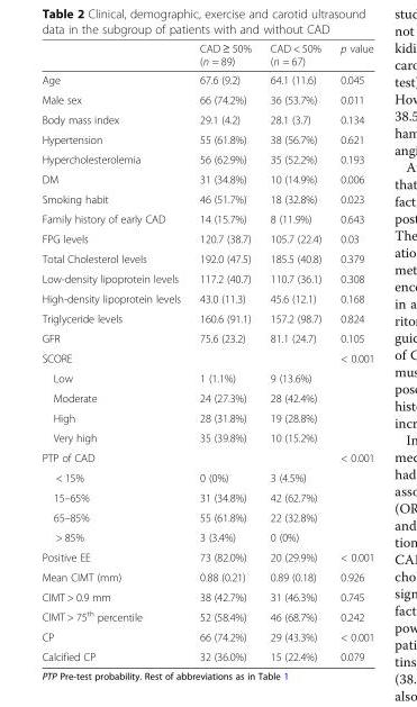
<table><thead><tr><td></td><td>CAD ≥ 50% (n = 89)</td><td>CAD &lt; 50% (n = 67)</td><td>p value</td></tr></thead><tbody><tr><td>Age</td><td>67.6 (9.2)</td><td>64.1 (11.6)</td><td>0.045</td></tr><tr><td>Male sex</td><td>66 (74.2%)</td><td>36 (53.7%)</td><td>0.011</td></tr><tr><td>Body mass index</td><td>29.1 (4.2)</td><td>28.1 (3.7)</td><td>0.134</td></tr><tr><td>Hypertension</td><td>55 (61.8%)</td><td>38 (56.7%)</td><td>0.621</td></tr><tr><td>Hypercholesterolemia</td><td>56 (62.9%)</td><td>35 (52.2%)</td><td>0.193</td></tr><tr><td>DM</td><td>31 (34.8%)</td><td>10 (14.9%)</td><td>0.006</td></tr><tr><td>Smoking habit</td><td>46 (51.7%)</td><td>18 (32.8%)</td><td>0.023</td></tr><tr><td>Family history of early CAD</td><td>14 (15.7%)</td><td>8 (11.9%)</td><td>0.643</td></tr><tr><td>FPG levels</td><td>120.7 (38.7)</td><td>105.7 (22.4)</td><td>0.03</td></tr><tr><td>Total Cholesterol levels</td><td>192.0 (47.5)</td><td>185.5 (40.8)</td><td>0.379</td></tr><tr><td>Low-density lipoprotein levels</td><td>117.2 (40.7)</td><td>110.7 (36.1)</td><td>0.308</td></tr><tr><td>High-density lipoprotein levels</td><td>43.0 (11.3)</td><td>45.6 (12.1)</td><td>0.168</td></tr><tr><td>Triglyceride levels</td><td>160.6 (91.1)</td><td>157.2 (98.7)</td><td>0.824</td></tr><tr><td>GFR</td><td>75.6 (23.2)</td><td>81.1 (24.7)</td><td>0.105</td></tr><tr><td>SCORE</td><td></td><td></td><td>&lt; 0.001</td></tr><tr><td>Low</td><td>1 (1.1%)</td><td>9 (13.6%)</td><td></td></tr><tr><td>Moderate</td><td>24 (27.3%)</td><td>28 (42.4%)</td><td></td></tr><tr><td>High</td><td>28 (31.8%)</td><td>19 (28.8%)</td><td></td></tr><tr><td>Very high</td><td>35 (39.8%)</td><td>10 (15.2%)</td><td></td></tr><tr><td>PTP of CAD</td><td></td><td></td><td>&lt; 0.001</td></tr><tr><td>&lt; 15%</td><td>0 (0%)</td><td>3 (4.5%)</td><td></td></tr><tr><td>15–65%</td><td>31 (34.8%)</td><td>42 (62.7%)</td><td></td></tr><tr><td>65–85%</td><td>55 (61.8%)</td><td>22 (32.8%)</td><td></td></tr><tr><td>&gt; 85%</td><td>3 (3.4%)</td><td>0 (0%)</td><td></td></tr><tr><td>Positive EE</td><td>73 (82.0%)</td><td>20 (29.9%)</td><td>&lt; 0.001</td></tr><tr><td>Mean CIMT (mm)</td><td>0.88 (0.21)</td><td>0.89 (0.18)</td><td>0.926</td></tr><tr><td>CIMT &gt; 0.9 mm</td><td>38 (42.7%)</td><td>31 (46.3%)</td><td>0.745</td></tr><tr><td>CIMT &gt; 75<sup>th</sup> percentile</td><td>52 (58.4%)</td><td>46 (68.7%)</td><td>0.242</td></tr><tr><td>CP</td><td>66 (74.2%)</td><td>29 (43.3%)</td><td>&lt; 0.001</td></tr><tr><td>Calcified CP</td><td>32 (36.0%)</td><td>15 (22.4%)</td><td>0.079</td></tr></tbody></table>